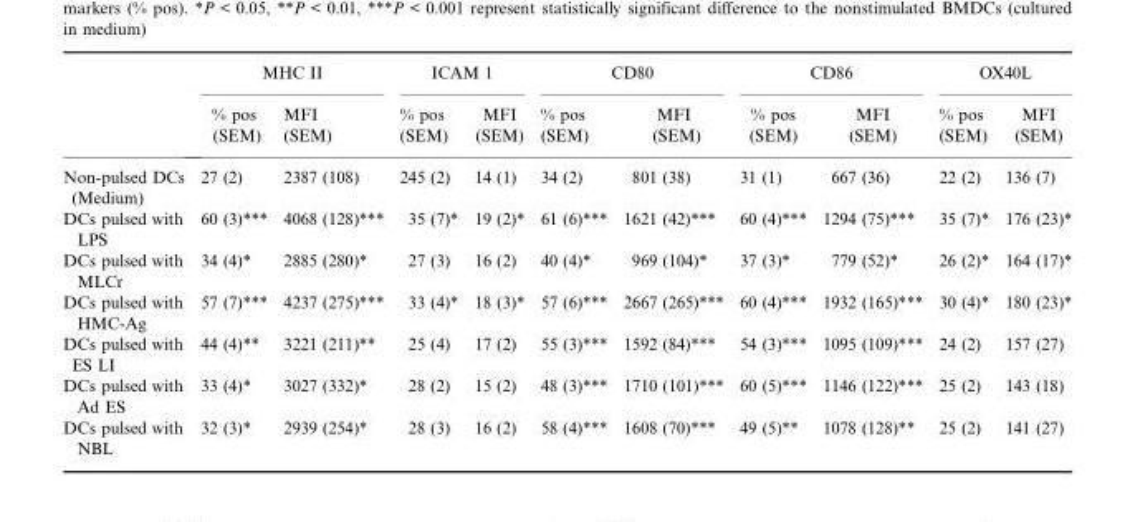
<table><thead><tr><td rowspan="2"></td><td colspan="2">MHC II</td><td colspan="2">ICAM 1</td><td colspan="2">CD80</td><td colspan="2">CD86</td><td colspan="2">OX40L</td></tr><tr><td>% pos (SEM)</td><td>MFI (SEM)</td><td>% pos (SEM)</td><td>MFI (SEM)</td><td>% pos (SEM)</td><td>MFI (SEM)</td><td>% pos (SEM)</td><td>MFI (SEM)</td><td>% pos (SEM)</td><td>MFI (SEM)</td></tr></thead><tbody><tr><td>Non-pulsed DCs (Medium)</td><td>27 (2)</td><td>2387 (108)</td><td>245 (2)</td><td>14 (1)</td><td>34 (2)</td><td>801 (38)</td><td>31 (1)</td><td>667 (36)</td><td>22 (2)</td><td>136 (7)</td></tr><tr><td>DCs pulsed with LPS</td><td>60 (3)***</td><td>4068 (128)***</td><td>35 (7)*</td><td>19 (2)*</td><td>61 (6)***</td><td>1621 (42)***</td><td>60 (4)***</td><td>1294 (75)***</td><td>35 (7)*</td><td>176 (23)*</td></tr><tr><td>DCs pulsed with MLCr</td><td>34 (4)*</td><td>2885 (280)*</td><td>27 (3)</td><td>16 (2)</td><td>40 (4)*</td><td>969 (104)*</td><td>37 (3)*</td><td>779 (52)*</td><td>26 (2)*</td><td>164 (17)*</td></tr><tr><td>DCs pulsed with HMC-Ag</td><td>57 (7)***</td><td>4237 (275)***</td><td>33 (4)*</td><td>18 (3)*</td><td>57 (6)***</td><td>2667 (265)***</td><td>60 (4)***</td><td>1932 (165)***</td><td>30 (4)*</td><td>180 (23)*</td></tr><tr><td>DCs pulsed with ES LI</td><td>44 (4)**</td><td>3221 (211)**</td><td>25 (4)</td><td>17 (2)</td><td>55 (3)***</td><td>1592 (84)***</td><td>54 (3)***</td><td>1095 (109)***</td><td>24 (2)</td><td>157 (27)</td></tr><tr><td>DCs pulsed with Ad ES</td><td>33 (4)*</td><td>3027 (332)*</td><td>28 (2)</td><td>15 (2)</td><td>48 (3)***</td><td>1710 (101)***</td><td>60 (5)***</td><td>1146 (122)***</td><td>25 (2)</td><td>143 (18)</td></tr><tr><td>DCs pulsed with NBL</td><td>32 (3)*</td><td>2939 (254)*</td><td>28 (3)</td><td>16 (2)</td><td>58 (4)***</td><td>1608 (70)***</td><td>49 (5)**</td><td>1078 (128)**</td><td>25 (2)</td><td>141 (27)</td></tr></tbody></table>